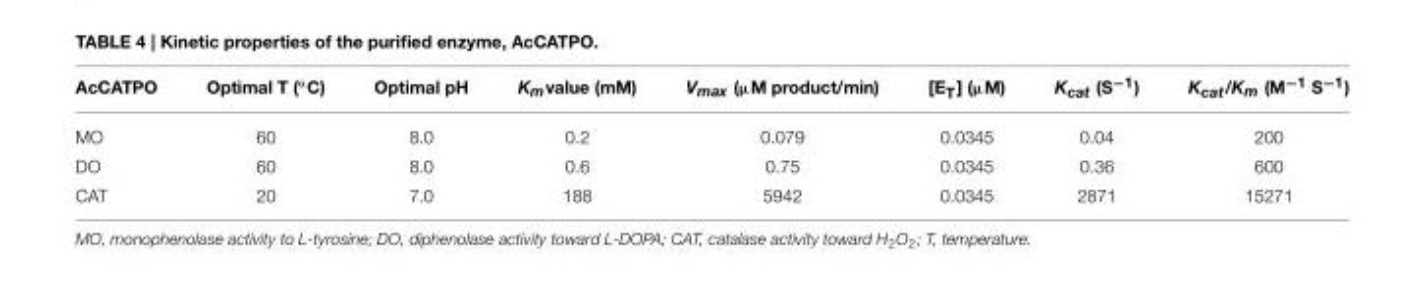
<table><thead><tr><td>AcCATPO</td><td>Optimal T (◦C)</td><td>Optimal pH</td><td>Kmvalue (mM)</td><td>Vmax (µM product/min)</td><td>[E<sub>T</sub>] (µM)</td><td>Kcat (S−1)</td><td>Kcat/Km (M−1 S−1)</td></tr></thead><tbody><tr><td>MO</td><td>60</td><td>8.0</td><td>0.2</td><td>0.079</td><td>0.0345</td><td>0.04</td><td>200</td></tr><tr><td>DO</td><td>60</td><td>8.0</td><td>0.6</td><td>0.75</td><td>0.0345</td><td>0.36</td><td>600</td></tr><tr><td>CAT</td><td>20</td><td>7.0</td><td>188</td><td>5942</td><td>0.0345</td><td>2871</td><td>15271</td></tr></tbody></table>